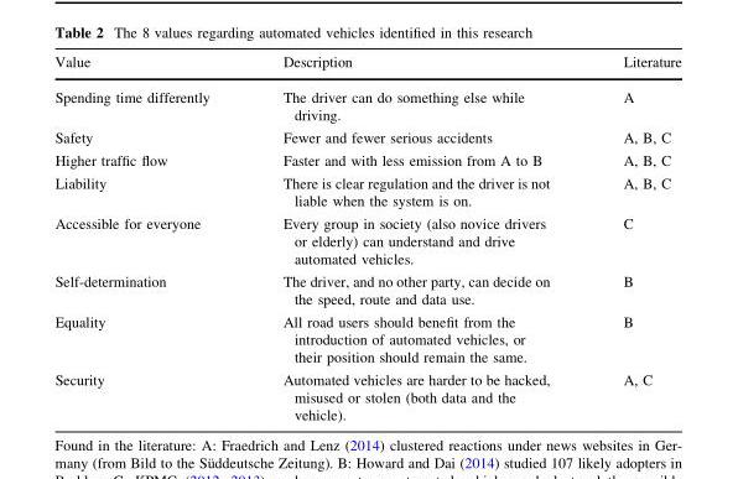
<table><thead><tr><td>Value</td><td>Description</td><td>Literature</td></tr></thead><tbody><tr><td>Spending time differently</td><td>The driver can do something else while driving.</td><td>A</td></tr><tr><td>Safety</td><td>Fewer and fewer serious accidents</td><td>A, B, C</td></tr><tr><td>Higher traffic flow</td><td>Faster and with less emission from A to B</td><td>A, B, C</td></tr><tr><td>Liability</td><td>There is clear regulation and the driver is not liable when the system is on.</td><td>A, B, C</td></tr><tr><td>Accessible for everyone</td><td>Every group in society (also novice drivers or elderly) can understand and drive automated vehicles.</td><td>C</td></tr><tr><td>Self-determination</td><td>The driver, and no other party, can decide on the speed, route and data use.</td><td>B</td></tr><tr><td>Equality</td><td>All road users should benefit from the introduction of automated vehicles, or their position should remain the same.</td><td>B</td></tr><tr><td>Security</td><td>Automated vehicles are harder to be hacked, misused or stolen (both data and the vehicle).</td><td>A, C</td></tr></tbody></table>